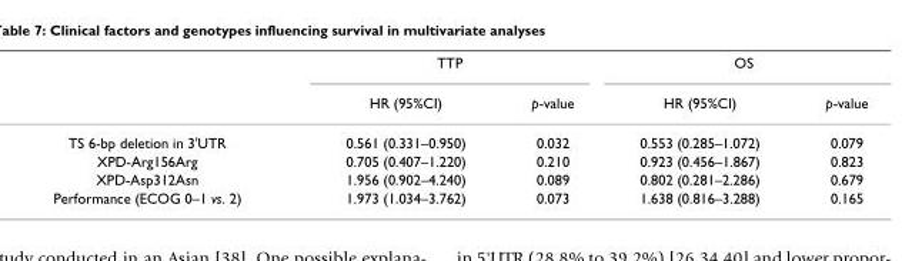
<table><thead><tr><td rowspan="2"></td><td colspan="2">TTP</td><td colspan="2">OS</td></tr><tr><td>HR (95%CI)</td><td>p-value</td><td>HR (95%CI)</td><td>p-value</td></tr></thead><tbody><tr><td>TS 6-bp deletion in 3&#x27;UTR</td><td>0.561 (0.331–0.950)</td><td>0.032</td><td>0.553 (0.285–1.072)</td><td>0.079</td></tr><tr><td>XPD-Arg156Arg</td><td>0.705 (0.407–1.220)</td><td>0.210</td><td>0.923 (0.456–1.867)</td><td>0.823</td></tr><tr><td>XPD-Asp312Asn</td><td>1.956 (0.902–4.240)</td><td>0.089</td><td>0.802 (0.281–2.286)</td><td>0.679</td></tr><tr><td>Performance (ECOG 0–1 vs. 2)</td><td>1.973 (1.034–3.762)</td><td>0.073</td><td>1.638 (0.816–3.288)</td><td>0.165</td></tr></tbody></table>